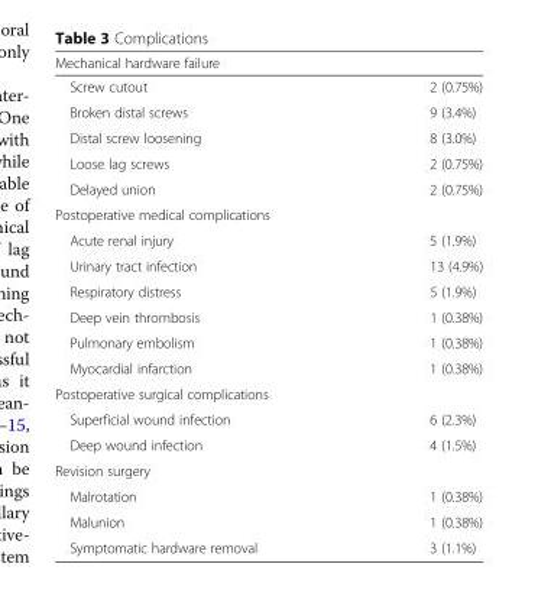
<table><thead><tr><td colspan="2">Mechanical hardware failure</td></tr><tr><td>Screw cutout</td><td>2 (0.75%)</td></tr></thead><tbody><tr><td>Broken distal screws</td><td>9 (3.4%)</td></tr><tr><td>Distal screw loosening</td><td>8 (3.0%)</td></tr><tr><td>Loose lag screws</td><td>2 (0.75%)</td></tr><tr><td>Delayed union</td><td>2 (0.75%)</td></tr><tr><td colspan="2">Postoperative medical complications</td></tr><tr><td>Acute renal injury</td><td>5 (1.9%)</td></tr><tr><td>Urinary tract infection</td><td>13 (4.9%)</td></tr><tr><td>Respiratory distress</td><td>5 (1.9%)</td></tr><tr><td>Deep vein thrombosis</td><td>1 (0.38%)</td></tr><tr><td>Pulmonary embolism</td><td>1 (0.38%)</td></tr><tr><td>Myocardial infarction</td><td>1 (0.38%)</td></tr><tr><td colspan="2">Postoperative surgical complications</td></tr><tr><td>Superficial wound infection</td><td>6 (2.3%)</td></tr><tr><td>Deep wound infection</td><td>4 (1.5%)</td></tr><tr><td colspan="2">Revision surgery</td></tr><tr><td>Malrotation</td><td>1 (0.38%)</td></tr><tr><td>Malunion</td><td>1 (0.38%)</td></tr><tr><td>Symptomatic hardware removal</td><td>3 (1.1%)</td></tr></tbody></table>